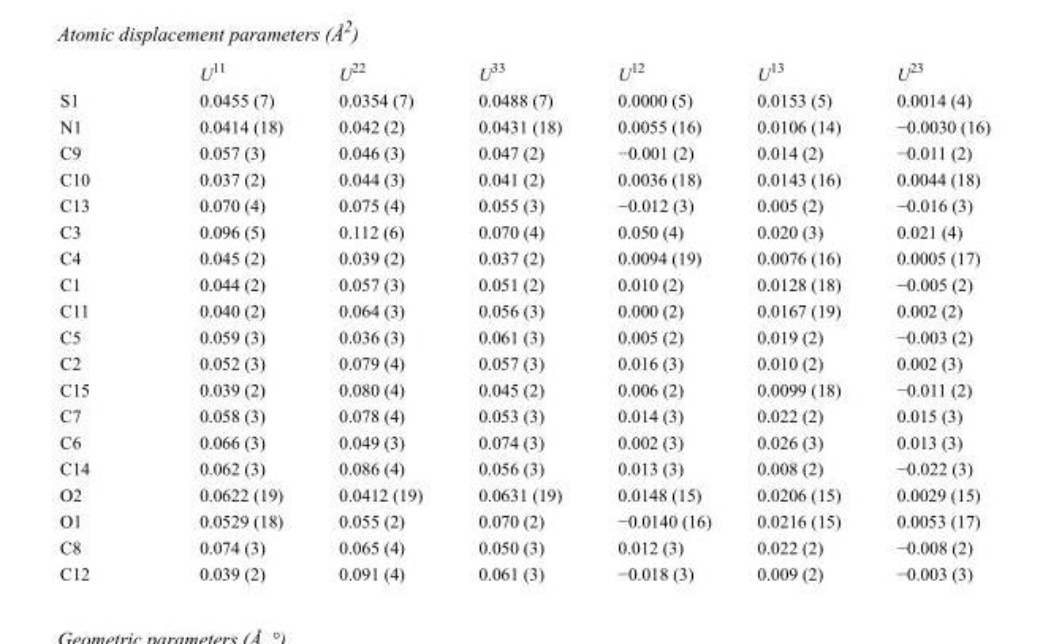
<table><thead><tr><td></td><td>U<sup>11</sup></td><td>U<sup>22</sup></td><td>U<sup>33</sup></td><td>U<sup>12</sup></td><td>U<sup>13</sup></td><td>U<sup>23</sup></td></tr></thead><tbody><tr><td>S1</td><td>0.0455 (7)</td><td>0.0354 (7)</td><td>0.0488 (7)</td><td>0.0000 (5)</td><td>0.0153 (5)</td><td>0.0014 (4)</td></tr><tr><td>N1</td><td>0.0414 (18)</td><td>0.042 (2)</td><td>0.0431 (18)</td><td>0.0055 (16)</td><td>0.0106 (14)</td><td>−0.0030 (16)</td></tr><tr><td>C9</td><td>0.057 (3)</td><td>0.046 (3)</td><td>0.047 (2)</td><td>−0.001 (2)</td><td>0.014 (2)</td><td>−0.011 (2)</td></tr><tr><td>C10</td><td>0.037 (2)</td><td>0.044 (3)</td><td>0.041 (2)</td><td>0.0036 (18)</td><td>0.0143 (16)</td><td>0.0044 (18)</td></tr><tr><td>C13</td><td>0.070 (4)</td><td>0.075 (4)</td><td>0.055 (3)</td><td>−0.012 (3)</td><td>0.005 (2)</td><td>−0.016 (3)</td></tr><tr><td>C3</td><td>0.096 (5)</td><td>0.112 (6)</td><td>0.070 (4)</td><td>0.050 (4)</td><td>0.020 (3)</td><td>0.021 (4)</td></tr><tr><td>C4</td><td>0.045 (2)</td><td>0.039 (2)</td><td>0.037 (2)</td><td>0.0094 (19)</td><td>0.0076 (16)</td><td>0.0005 (17)</td></tr><tr><td>C1</td><td>0.044 (2)</td><td>0.057 (3)</td><td>0.051 (2)</td><td>0.010 (2)</td><td>0.0128 (18)</td><td>−0.005 (2)</td></tr><tr><td>C11</td><td>0.040 (2)</td><td>0.064 (3)</td><td>0.056 (3)</td><td>0.000 (2)</td><td>0.0167 (19)</td><td>0.002 (2)</td></tr><tr><td>C5</td><td>0.059 (3)</td><td>0.036 (3)</td><td>0.061 (3)</td><td>0.005 (2)</td><td>0.019 (2)</td><td>−0.003 (2)</td></tr><tr><td>C2</td><td>0.052 (3)</td><td>0.079 (4)</td><td>0.057 (3)</td><td>0.016 (3)</td><td>0.010 (2)</td><td>0.002 (3)</td></tr><tr><td>C15</td><td>0.039 (2)</td><td>0.080 (4)</td><td>0.045 (2)</td><td>0.006 (2)</td><td>0.0099 (18)</td><td>−0.011 (2)</td></tr><tr><td>C7</td><td>0.058 (3)</td><td>0.078 (4)</td><td>0.053 (3)</td><td>0.014 (3)</td><td>0.022 (2)</td><td>0.015 (3)</td></tr><tr><td>C6</td><td>0.066 (3)</td><td>0.049 (3)</td><td>0.074 (3)</td><td>0.002 (3)</td><td>0.026 (3)</td><td>0.013 (3)</td></tr><tr><td>C14</td><td>0.062 (3)</td><td>0.086 (4)</td><td>0.056 (3)</td><td>0.013 (3)</td><td>0.008 (2)</td><td>−0.022 (3)</td></tr><tr><td>O2</td><td>0.0622 (19)</td><td>0.0412 (19)</td><td>0.0631 (19)</td><td>0.0148 (15)</td><td>0.0206 (15)</td><td>0.0029 (15)</td></tr><tr><td>O1</td><td>0.0529 (18)</td><td>0.055 (2)</td><td>0.070 (2)</td><td>−0.0140 (16)</td><td>0.0216 (15)</td><td>0.0053 (17)</td></tr><tr><td>C8</td><td>0.074 (3)</td><td>0.065 (4)</td><td>0.050 (3)</td><td>0.012 (3)</td><td>0.022 (2)</td><td>−0.008 (2)</td></tr><tr><td>C12</td><td>0.039 (2)</td><td>0.091 (4)</td><td>0.061 (3)</td><td>−0.018 (3)</td><td>0.009 (2)</td><td>−0.003 (3)</td></tr></tbody></table>